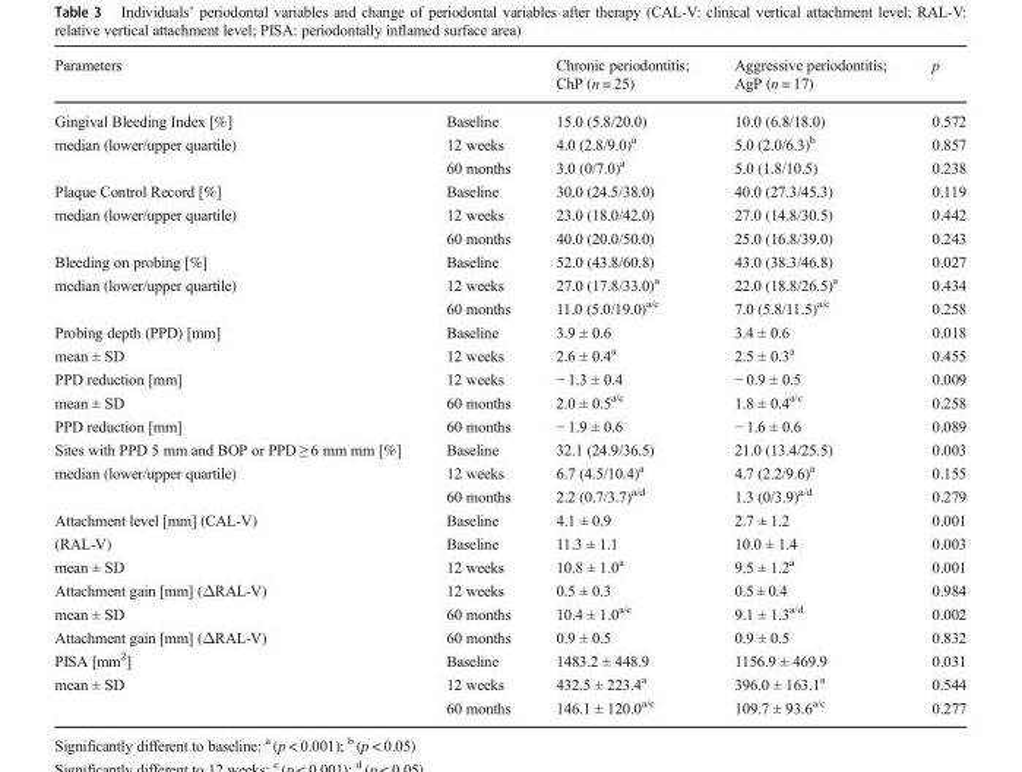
<table><thead><tr><td>Parameters</td><td></td><td>Chronic periodontitis; ChP (n = 25)</td><td>Aggressive periodontitis; AgP (n = 17)</td><td>p</td></tr></thead><tbody><tr><td>Gingival Bleeding Index [%]</td><td>Baseline</td><td>15.0 (5.8/20.0)</td><td>10.0 (6.8/18.0)</td><td>0.572</td></tr><tr><td rowspan="2">median (lower/upper quartile)</td><td>12 weeks</td><td>4.0 (2.8/9.0)<sup>a</sup></td><td>5.0 (2.0/6.3)<sup>b</sup></td><td>0.857</td></tr><tr><td>60 months</td><td>3.0 (0/7.0)<sup>a</sup></td><td>5.0 (1.8/10.5)</td><td>0.238</td></tr><tr><td>Plaque Control Record [%]</td><td>Baseline</td><td>30.0 (24.5/38.0)</td><td>40.0 (27.3/45.3)</td><td>0.119</td></tr><tr><td rowspan="2">median (lower/upper quartile)</td><td>12 weeks</td><td>23.0 (18.0/42.0)</td><td>27.0 (14.8/30.5)</td><td>0.442</td></tr><tr><td>60 months</td><td>40.0 (20.0/50.0)</td><td>25.0 (16.8/39.0)</td><td>0.243</td></tr><tr><td>Bleeding on probing [%]</td><td>Baseline</td><td>52.0 (43.8/60.8)</td><td>43.0 (38.3/46.8)</td><td>0.027</td></tr><tr><td rowspan="2">median (lower/upper quartile)</td><td>12 weeks</td><td>27.0 (17.8/33.0)<sup>a</sup></td><td>22.0 (18.8/26.5)<sup>a</sup></td><td>0.434</td></tr><tr><td>60 months</td><td>11.0 (5.0/19.0)<sup>a/c</sup></td><td>7.0 (5.8/11.5)<sup>a/c</sup></td><td>0.258</td></tr><tr><td>Probing depth (PPD) [mm]</td><td>Baseline</td><td>3.9 ± 0.6</td><td>3.4 ± 0.6</td><td>0.018</td></tr><tr><td>mean ± SD</td><td>12 weeks</td><td>2.6 ± 0.4<sup>a</sup></td><td>2.5 ± 0.3<sup>a</sup></td><td>0.455</td></tr><tr><td>PPD reduction [mm]</td><td>12 weeks</td><td>− 1.3 ± 0.4</td><td>− 0.9 ± 0.5</td><td>0.009</td></tr><tr><td>mean ± SD</td><td>60 months</td><td>2.0 ± 0.5<sup>a/c</sup></td><td>1.8 ± 0.4<sup>a/c</sup></td><td>0.258</td></tr><tr><td>PPD reduction [mm]</td><td>60 months</td><td>− 1.9 ± 0.6</td><td>− 1.6 ± 0.6</td><td>0.089</td></tr><tr><td>Sites with PPD 5 mm and BOP or PPD ≥ 6 mm mm [%]</td><td>Baseline</td><td>32.1 (24.9/36.5)</td><td>21.0 (13.4/25.5)</td><td>0.003</td></tr><tr><td rowspan="2">median (lower/upper quartile)</td><td>12 weeks</td><td>6.7 (4.5/10.4)<sup>a</sup></td><td>4.7 (2.2/9.6)<sup>a</sup></td><td>0.155</td></tr><tr><td>60 months</td><td>2.2 (0.7/3.7)<sup>a/d</sup></td><td>1.3 (0/3.9)<sup>a/d</sup></td><td>0.279</td></tr><tr><td>Attachment level [mm] (CAL-V)</td><td>Baseline</td><td>4.1 ± 0.9</td><td>2.7 ± 1.2</td><td>0.001</td></tr><tr><td>(RAL-V)</td><td>Baseline</td><td>11.3 ± 1.1</td><td>10.0 ± 1.4</td><td>0.003</td></tr><tr><td>mean ± SD</td><td>12 weeks</td><td>10.8 ± 1.0<sup>a</sup></td><td>9.5 ± 1.2<sup>a</sup></td><td>0.001</td></tr><tr><td>Attachment gain [mm] (ΔRAL-V)</td><td>12 weeks</td><td>0.5 ± 0.3</td><td>0.5 ± 0.4</td><td>0.984</td></tr><tr><td>mean ± SD</td><td>60 months</td><td>10.4 ± 1.0<sup>a/c</sup></td><td>9.1 ± 1.3<sup>a/d</sup></td><td>0.002</td></tr><tr><td>Attachment gain [mm] (ΔRAL-V)</td><td>60 months</td><td>0.9 ± 0.5</td><td>0.9 ± 0.5</td><td>0.832</td></tr><tr><td>PISA [mm<sup>2</sup>]</td><td>Baseline</td><td>1483.2 ± 448.9</td><td>1156.9 ± 469.9</td><td>0.031</td></tr><tr><td rowspan="2">mean ± SD</td><td>12 weeks</td><td>432.5 ± 223.4<sup>a</sup></td><td>396.0 ± 163.1<sup>a</sup></td><td>0.544</td></tr><tr><td>60 months</td><td>146.1 ± 120.0<sup>a/c</sup></td><td>109.7 ± 93.6<sup>a/c</sup></td><td>0.277</td></tr></tbody></table>